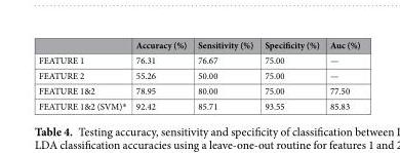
<table><thead><tr><td></td><td>Accuracy (%)</td><td>Sensitivity (%)</td><td>Specificity (%)</td><td>Auc (%)</td></tr></thead><tbody><tr><td>FEATURE 1</td><td>76.31</td><td>76.67</td><td>75.00</td><td>—</td></tr><tr><td>FEATURE 2</td><td>55.26</td><td>50.00</td><td>75.00</td><td>—</td></tr><tr><td>FEATURE 1&amp;2</td><td>78.95</td><td>80.00</td><td>75.00</td><td>77.50</td></tr><tr><td>FEATURE 1&amp;2 (SVM)*</td><td>92.42</td><td>85.71</td><td>93.55</td><td>85.83</td></tr></tbody></table>